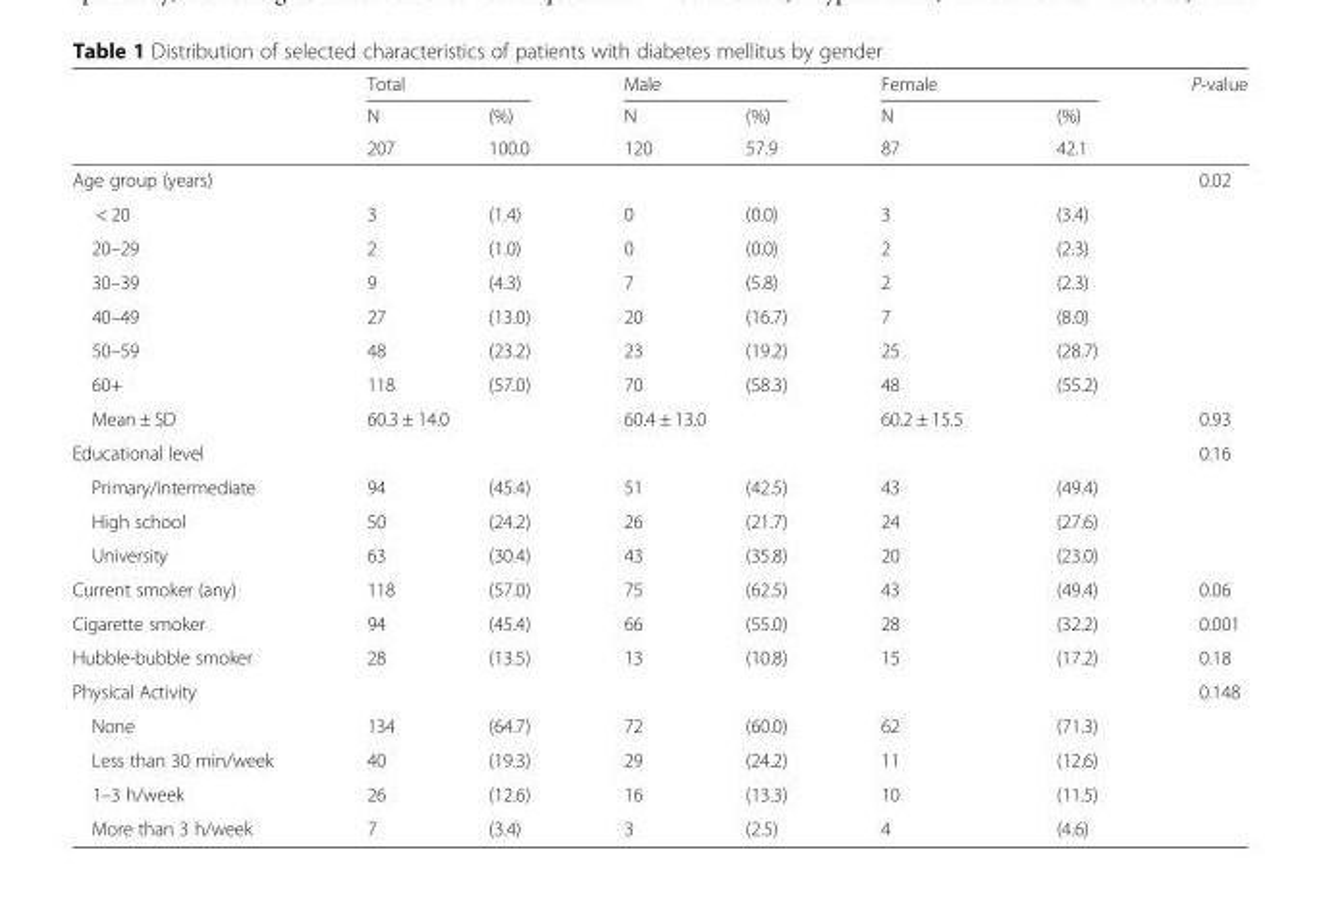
<table><thead><tr><td rowspan="3"></td><td colspan="2">Total</td><td colspan="2">Male</td><td colspan="2">Female</td><td rowspan="3">P-value</td></tr><tr><td rowspan="2">N 207</td><td rowspan="2">(%) 100.0</td><td rowspan="2">N 120</td><td rowspan="2">(%) 57.9</td><td rowspan="2">N 87</td><td rowspan="2">(%) 42.1</td></tr><tr></tr></thead><tbody><tr><td>Age group (years)</td><td></td><td></td><td></td><td></td><td></td><td></td><td>0.02</td></tr><tr><td>&lt; 20</td><td>3</td><td>(1.4)</td><td>0</td><td>(0.0)</td><td>3</td><td>(3.4)</td><td></td></tr><tr><td>20–29</td><td>2</td><td>(1.0)</td><td>0</td><td>(0.0)</td><td>2</td><td>(2.3)</td><td></td></tr><tr><td>30–39</td><td>9</td><td>(4.3)</td><td>7</td><td>(5.8)</td><td>2</td><td>(2.3)</td><td></td></tr><tr><td>40–49</td><td>27</td><td>(13.0)</td><td>20</td><td>(16.7)</td><td>7</td><td>(8.0)</td><td></td></tr><tr><td>50–59</td><td>48</td><td>(23.2)</td><td>23</td><td>(19.2)</td><td>25</td><td>(28.7)</td><td></td></tr><tr><td>60+</td><td>118</td><td>(57.0)</td><td>70</td><td>(58.3)</td><td>48</td><td>(55.2)</td><td></td></tr><tr><td>Mean ± SD</td><td colspan="2">60.3 ± 14.0</td><td colspan="2">60.4 ± 13.0</td><td>60.2 ± 15.5</td><td></td><td>0.93</td></tr><tr><td>Educational level</td><td></td><td></td><td></td><td></td><td></td><td></td><td>0.16</td></tr><tr><td>Primary/intermediate</td><td>94</td><td>(45.4)</td><td>51</td><td>(42.5)</td><td>43</td><td>(49.4)</td><td></td></tr><tr><td>High school</td><td>50</td><td>(24.2)</td><td>26</td><td>(21.7)</td><td>24</td><td>(27.6)</td><td></td></tr><tr><td>University</td><td>63</td><td>(30.4)</td><td>43</td><td>(35.8)</td><td>20</td><td>(23.0)</td><td></td></tr><tr><td>Current smoker (any)</td><td>118</td><td>(57.0)</td><td>75</td><td>(62.5)</td><td>43</td><td>(49.4)</td><td>0.06</td></tr><tr><td>Cigarette smoker</td><td>94</td><td>(45.4)</td><td>66</td><td>(55.0)</td><td>28</td><td>(32.2)</td><td>0.001</td></tr><tr><td>Hubble-bubble smoker</td><td>28</td><td>(13.5)</td><td>13</td><td>(10.8)</td><td>15</td><td>(17.2)</td><td>0.18</td></tr><tr><td>Physical Activity</td><td></td><td></td><td></td><td></td><td></td><td></td><td>0.148</td></tr><tr><td>None</td><td>134</td><td>(64.7)</td><td>72</td><td>(60.0)</td><td>62</td><td>(71.3)</td><td></td></tr><tr><td>Less than 30 min/week</td><td>40</td><td>(19.3)</td><td>29</td><td>(24.2)</td><td>11</td><td>(12.6)</td><td></td></tr><tr><td>1–3 h/week</td><td>26</td><td>(12.6)</td><td>16</td><td>(13.3)</td><td>10</td><td>(11.5)</td><td></td></tr><tr><td>More than 3 h/week</td><td>7</td><td>(3.4)</td><td>3</td><td>(2.5)</td><td>4</td><td>(4.6)</td><td></td></tr></tbody></table>